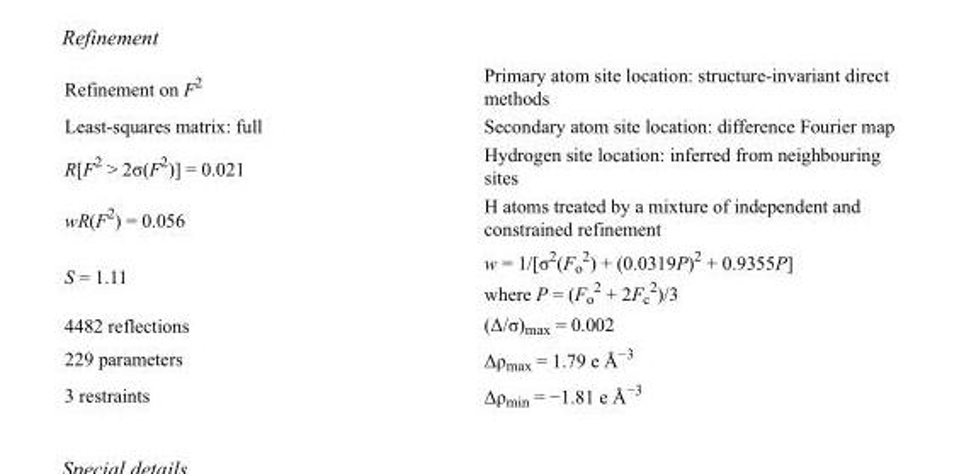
<table><tbody><tr><td>Refinement on F<sup>2</sup></td><td>Primary atom site location: structure-invariant direct methods</td></tr><tr><td>Least-squares matrix: full</td><td>Secondary atom site location: difference Fourier map</td></tr><tr><td>R[F<sup>2</sup> &gt; 2σ(F<sup>2</sup>)] = 0.021</td><td>Hydrogen site location: inferred from neighbouring sites</td></tr><tr><td>wR(F<sup>2</sup>) = 0.056</td><td>H atoms treated by a mixture of independent and constrained refinement</td></tr><tr><td>S = 1.11</td><td>w = 1/[σ<sup>2</sup>(F<sub>o</sub> <sup>2</sup>) + (0.0319P)<sup>2</sup> + 0.9355P] where P = (F<sub>o</sub> <sup>2</sup> + 2F<sub>c</sub> <sup>2</sup>)/3</td></tr><tr><td>4482 reflections</td><td>(Δ/σ)<sub>max</sub> = 0.002</td></tr><tr><td>229 parameters</td><td>Δρ<sub>max</sub> = 1.79 e Å<sup>−3</sup></td></tr><tr><td>3 restraints</td><td>Δρ<sub>min</sub> = −1.81 e Å<sup>−3</sup></td></tr></tbody></table>